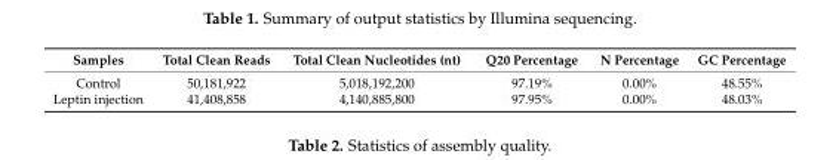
<table><thead><tr><td>Samples</td><td>Total Clean Reads</td><td>Total Clean Nucleotides (nt)</td><td>Q20 Percentage</td><td>N Percentage</td><td>GC Percentage</td></tr></thead><tbody><tr><td>Control</td><td>50,181,922</td><td>5,018,192,200</td><td>97.19%</td><td>0.00%</td><td>48.55%</td></tr><tr><td>Leptin injection</td><td>41,408,858</td><td>4,140,885,800</td><td>97.95%</td><td>0.00%</td><td>48.03%</td></tr></tbody></table>